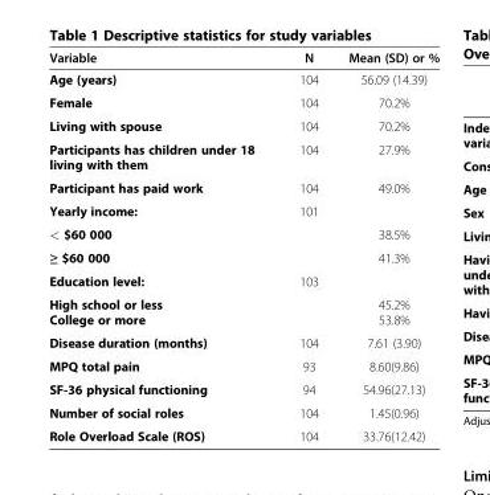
<table><thead><tr><td>Variable</td><td>N</td><td>Mean (SD) or %</td></tr></thead><tbody><tr><td>Age (years)</td><td>104</td><td>56.09 (14.39)</td></tr><tr><td>Female</td><td>104</td><td>70.2%</td></tr><tr><td>Living with spouse</td><td>104</td><td>70.2%</td></tr><tr><td>Participants has children under 18 living with them</td><td>104</td><td>27.9%</td></tr><tr><td>Participant has paid work</td><td>104</td><td>49.0%</td></tr><tr><td>Yearly income:</td><td>101</td><td></td></tr><tr><td>&lt; $60 000</td><td></td><td>38.5%</td></tr><tr><td>≥ $60 000</td><td></td><td>41.3%</td></tr><tr><td>Education level:</td><td>103</td><td></td></tr><tr><td>High school or less College or more</td><td></td><td>45.2% 53.8%</td></tr><tr><td>Disease duration (months)</td><td>104</td><td>7.61 (3.90)</td></tr><tr><td>MPQ total pain</td><td>93</td><td>8.60(9.86)</td></tr><tr><td>SF-36 physical functioning</td><td>94</td><td>54.96(27.13)</td></tr><tr><td>Number of social roles</td><td>104</td><td>1.45(0.96)</td></tr><tr><td>Role Overload Scale (ROS)</td><td>104</td><td>33.76(12.42)</td></tr></tbody></table>